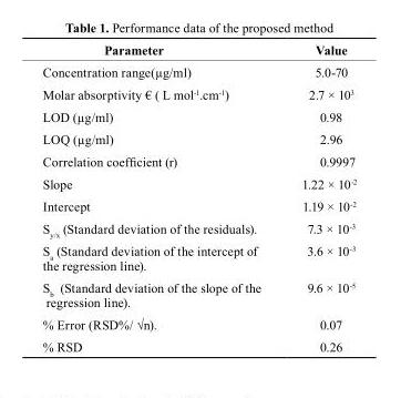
<table><thead><tr><td>Parameter</td><td>Value</td></tr></thead><tbody><tr><td>Concentration range(µg/ml)</td><td>5.0-70</td></tr><tr><td>Molar absorptivity € ( L mol<sup>-1</sup>.cm<sup>-1</sup>)</td><td>2.7 × 10<sup>3</sup></td></tr><tr><td>LOD (µg/ml)</td><td>0.98</td></tr><tr><td>LOQ (µg/ml)</td><td>2.96</td></tr><tr><td>Correlation coefficient (r)</td><td>0.9997</td></tr><tr><td>Slope</td><td>1.22 × 10<sup>-2</sup></td></tr><tr><td>Intercept</td><td>1.19 × 10<sup>-2</sup></td></tr><tr><td>S<sub>y/x</sub> (Standard deviation of the residuals).</td><td>7.3 × 10<sup>-3</sup></td></tr><tr><td>S<sub>a</sub> (Standard deviation of the intercept of the regression line).</td><td>3.6 × 10<sup>-3</sup></td></tr><tr><td>S<sub>b</sub> (Standard deviation of the slope of the regression line).</td><td>9.6 × 10<sup>-5</sup></td></tr><tr><td>% Error (RSD%/ √n).</td><td>0.07</td></tr><tr><td>% RSD</td><td>0.26</td></tr></tbody></table>